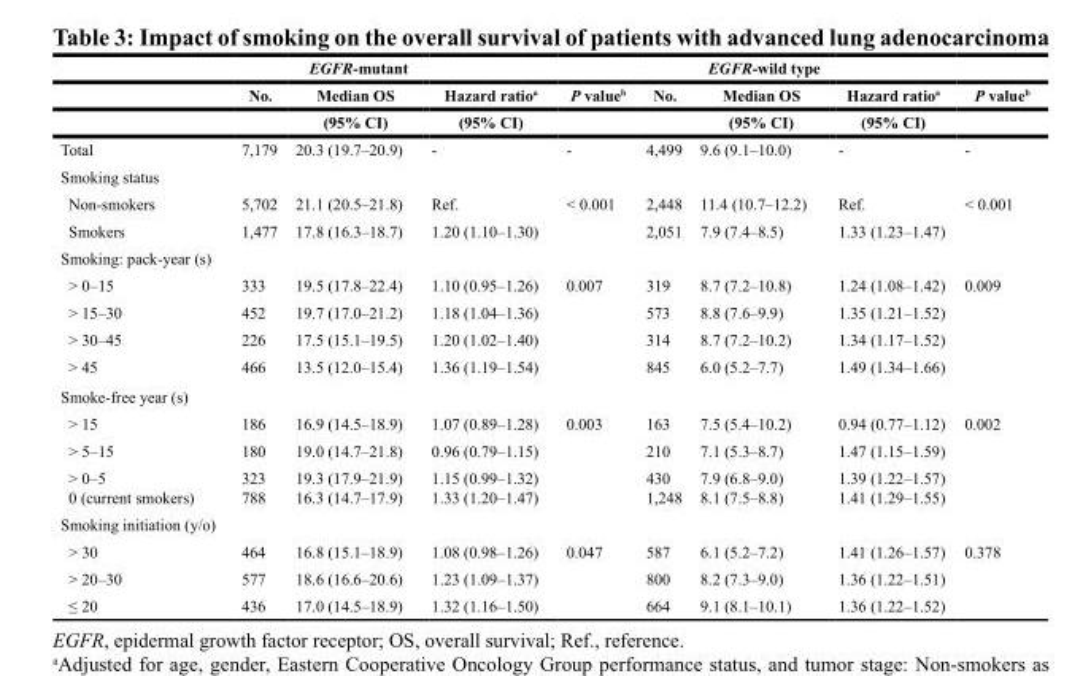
<table><thead><tr><td rowspan="3"></td><td colspan="4">EGFR-mutant</td><td colspan="4">EGFR-wild type</td></tr><tr><td rowspan="2">No.</td><td rowspan="2">Median OS (95% CI)</td><td rowspan="2">Hazard ratio<sup>a</sup> (95% CI)</td><td rowspan="2">P value<sup>b</sup></td><td rowspan="2">No.</td><td rowspan="2">Median OS (95% CI)</td><td rowspan="2">Hazard ratio<sup>a</sup> (95% CI)</td><td rowspan="2">P value<sup>b</sup></td></tr><tr></tr></thead><tbody><tr><td>Total</td><td>7,179</td><td>20.3 (19.7–20.9)</td><td>-</td><td>-</td><td>4,499</td><td>9.6 (9.1–10.0)</td><td>-</td><td>-</td></tr><tr><td colspan="9">Smoking status</td></tr><tr><td>Non-smokers</td><td>5,702</td><td>21.1 (20.5–21.8)</td><td>Ref.</td><td>&lt; 0.001</td><td>2,448</td><td>11.4 (10.7–12.2)</td><td>Ref.</td><td>&lt; 0.001</td></tr><tr><td>Smokers</td><td>1,477</td><td>17.8 (16.3–18.7)</td><td>1.20 (1.10–1.30)</td><td></td><td>2,051</td><td>7.9 (7.4–8.5)</td><td>1.33 (1.23–1.47)</td><td></td></tr><tr><td colspan="9">Smoking: pack-year (s)</td></tr><tr><td>&gt; 0–15</td><td>333</td><td>19.5 (17.8–22.4)</td><td>1.10 (0.95–1.26)</td><td>0.007</td><td>319</td><td>8.7 (7.2–10.8)</td><td>1.24 (1.08–1.42)</td><td>0.009</td></tr><tr><td>&gt; 15–30</td><td>452</td><td>19.7 (17.0–21.2)</td><td>1.18 (1.04–1.36)</td><td></td><td>573</td><td>8.8 (7.6–9.9)</td><td>1.35 (1.21–1.52)</td><td></td></tr><tr><td>&gt; 30–45</td><td>226</td><td>17.5 (15.1–19.5)</td><td>1.20 (1.02–1.40)</td><td></td><td>314</td><td>8.7 (7.2–10.2)</td><td>1.34 (1.17–1.52)</td><td></td></tr><tr><td>&gt; 45</td><td>466</td><td>13.5 (12.0–15.4)</td><td>1.36 (1.19–1.54)</td><td></td><td>845</td><td>6.0 (5.2–7.7)</td><td>1.49 (1.34–1.66)</td><td></td></tr><tr><td colspan="9">Smoke-free year (s)</td></tr><tr><td>&gt; 15</td><td>186</td><td>16.9 (14.5–18.9)</td><td>1.07 (0.89–1.28)</td><td>0.003</td><td>163</td><td>7.5 (5.4–10.2)</td><td>0.94 (0.77–1.12)</td><td>0.002</td></tr><tr><td>&gt; 5–15</td><td>180</td><td>19.0 (14.7–21.8)</td><td>0.96 (0.79–1.15)</td><td></td><td>210</td><td>7.1 (5.3–8.7)</td><td>1.47 (1.15–1.59)</td><td></td></tr><tr><td>&gt; 0–5</td><td>323</td><td>19.3 (17.9–21.9)</td><td>1.15 (0.99–1.32)</td><td></td><td>430</td><td>7.9 (6.8–9.0)</td><td>1.39 (1.22–1.57)</td><td></td></tr><tr><td>0 (current smokers)</td><td>788</td><td>16.3 (14.7–17.9)</td><td>1.33 (1.20–1.47)</td><td></td><td>1,248</td><td>8.1 (7.5–8.8)</td><td>1.41 (1.29–1.55)</td><td></td></tr><tr><td colspan="9">Smoking initiation (y/o)</td></tr><tr><td>&gt; 30</td><td>464</td><td>16.8 (15.1–18.9)</td><td>1.08 (0.98–1.26)</td><td>0.047</td><td>587</td><td>6.1 (5.2–7.2)</td><td>1.41 (1.26–1.57)</td><td>0.378</td></tr><tr><td>&gt; 20–30</td><td>577</td><td>18.6 (16.6–20.6)</td><td>1.23 (1.09–1.37)</td><td></td><td>800</td><td>8.2 (7.3–9.0)</td><td>1.36 (1.22–1.51)</td><td></td></tr><tr><td>≤ 20</td><td>436</td><td>17.0 (14.5–18.9)</td><td>1.32 (1.16–1.50)</td><td></td><td>664</td><td>9.1 (8.1–10.1)</td><td>1.36 (1.22–1.52)</td><td></td></tr></tbody></table>